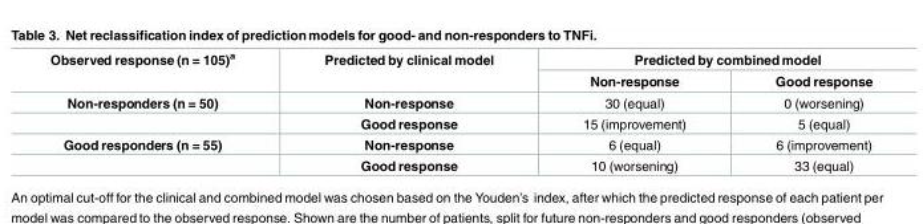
<table><thead><tr><td rowspan="2">Observed response (n = 105)<sup>a</sup></td><td rowspan="2">Predicted by clinical model</td><td colspan="2">Predicted by combined model</td></tr><tr><td>Non-response</td><td>Good response</td></tr></thead><tbody><tr><td rowspan="2">Non-responders (n = 50)</td><td>Non-response</td><td>30 (equal)</td><td>0 (worsening)</td></tr><tr><td>Good response</td><td>15 (improvement)</td><td>5 (equal)</td></tr><tr><td rowspan="2">Good responders (n = 55)</td><td>Non-response</td><td>6 (equal)</td><td>6 (improvement)</td></tr><tr><td>Good response</td><td>10 (worsening)</td><td>33 (equal)</td></tr></tbody></table>